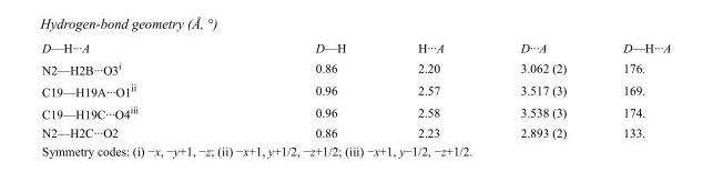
<table><tbody><tr><td>D—H···A</td><td>D—H</td><td>H···A</td><td>D···A</td><td>D—H···A</td></tr><tr><td>N2—H2B···O3<sup>i</sup></td><td>0.86</td><td>2.20</td><td>3.062 (2)</td><td>176.</td></tr><tr><td>C19—H19A···O1<sup>ii</sup></td><td>0.96</td><td>2.57</td><td>3.517 (3)</td><td>169.</td></tr><tr><td>C19—H19C···O4<sup>iii</sup></td><td>0.96</td><td>2.58</td><td>3.538 (3)</td><td>174.</td></tr><tr><td>N2—H2C···O2</td><td>0.86</td><td>2.23</td><td>2.893 (2)</td><td>133.</td></tr></tbody></table>